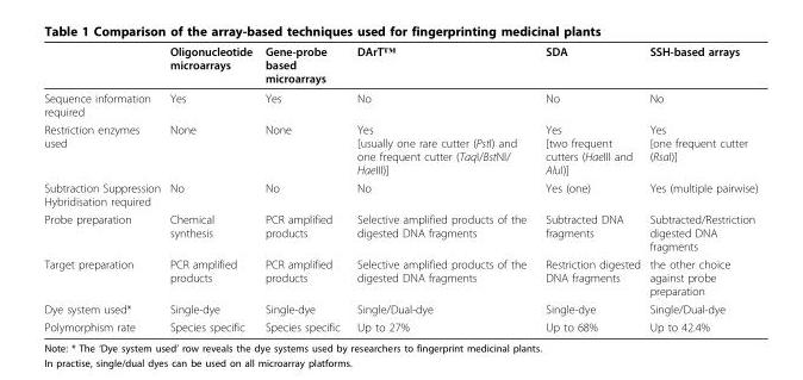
<table><thead><tr><td></td><td>Oligonucleotide microarrays</td><td>Gene-probe based microarrays</td><td>DArT™</td><td>SDA</td><td>SSH-based arrays</td></tr></thead><tbody><tr><td>Sequence information required</td><td>Yes</td><td>Yes</td><td>No</td><td>No</td><td>No</td></tr><tr><td>Restriction enzymes used</td><td>None</td><td>None</td><td>Yes [usually one rare cutter (PstI) and one frequent cutter (TaqI/BstNI/ HaeIII)]</td><td>Yes [two frequent cutters (HaeIII and AluI)]</td><td>Yes [one frequent cutter (RsaI)]</td></tr><tr><td>Subtraction Suppression Hybridisation required</td><td>No</td><td>No</td><td>No</td><td>Yes (one)</td><td>Yes (multiple pairwise)</td></tr><tr><td>Probe preparation</td><td>Chemical synthesis</td><td>PCR amplified products</td><td>Selective amplified products of the digested DNA fragments</td><td>Subtracted DNA fragments</td><td>Subtracted/Restriction digested DNA fragments</td></tr><tr><td>Target preparation</td><td>PCR amplified products</td><td>PCR amplified products</td><td>Selective amplified products of the digested DNA fragments</td><td>Restriction digested DNA fragments</td><td>the other choice against probe preparation</td></tr><tr><td>Dye system used*</td><td>Single-dye</td><td>Single-dye</td><td>Single/Dual-dye</td><td>Single-dye</td><td>Single/Dual-dye</td></tr><tr><td>Polymorphism rate</td><td>Species specific</td><td>Species specific</td><td>Up to 27%</td><td>Up to 68%</td><td>Up to 42.4%</td></tr></tbody></table>